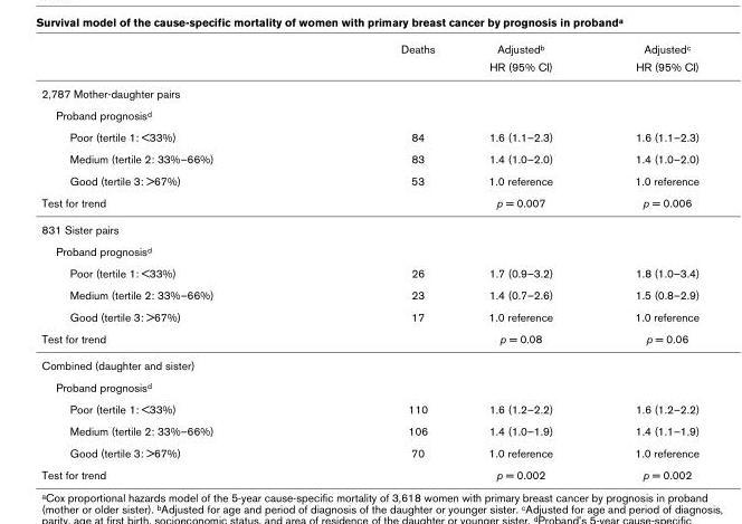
<table><thead><tr><td rowspan="2"></td><td rowspan="2">Deaths</td><td rowspan="2">Adjusted<sup>b</sup> HR (95% CI)</td><td rowspan="2">Adjusted<sup>c</sup> HR (95% CI)</td></tr><tr></tr></thead><tbody><tr><td colspan="4">2,787 Mother-daughter pairs</td></tr><tr><td colspan="4">Proband prognosis<sup>d</sup></td></tr><tr><td>Poor (tertile 1: &lt;33%)</td><td>84</td><td>1.6 (1.1–2.3)</td><td>1.6 (1.1–2.3)</td></tr><tr><td>Medium (tertile 2: 33%–66%)</td><td>83</td><td>1.4 (1.0–2.0)</td><td>1.4 (1.0–2.0)</td></tr><tr><td>Good (tertile 3: &gt;67%)</td><td>53</td><td>1.0 reference</td><td>1.0 reference</td></tr><tr><td>Test for trend</td><td></td><td>p = 0.007</td><td>p = 0.006</td></tr><tr><td colspan="4">831 Sister pairs</td></tr><tr><td colspan="4">Proband prognosis<sup>d</sup></td></tr><tr><td>Poor (tertile 1: &lt;33%)</td><td>26</td><td>1.7 (0.9–3.2)</td><td>1.8 (1.0–3.4)</td></tr><tr><td>Medium (tertile 2: 33%–66%)</td><td>23</td><td>1.4 (0.7–2.6)</td><td>1.5 (0.8–2.9)</td></tr><tr><td>Good (tertile 3: &gt;67%)</td><td>17</td><td>1.0 reference</td><td>1.0 reference</td></tr><tr><td>Test for trend</td><td></td><td>p = 0.08</td><td>p = 0.06</td></tr><tr><td colspan="4">Combined (daughter and sister)</td></tr><tr><td colspan="4">Proband prognosis<sup>d</sup></td></tr><tr><td>Poor (tertile 1: &lt;33%)</td><td>110</td><td>1.6 (1.2–2.2)</td><td>1.6 (1.2–2.2)</td></tr><tr><td>Medium (tertile 2: 33%–66%)</td><td>106</td><td>1.4 (1.0–1.9)</td><td>1.4 (1.1–1.9)</td></tr><tr><td>Good (tertile 3: &gt;67%)</td><td>70</td><td>1.0 reference</td><td>1.0 reference</td></tr><tr><td>Test for trend</td><td></td><td>p = 0.002</td><td>p = 0.002</td></tr></tbody></table>